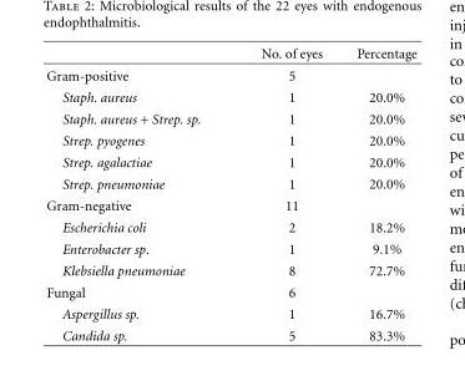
<table><thead><tr><td></td><td>No. of eyes</td><td>Percentage</td></tr></thead><tbody><tr><td>Gram-positive</td><td>5</td><td></td></tr><tr><td>Staph. aureus</td><td>1</td><td>20.0%</td></tr><tr><td>Staph. aureus + Strep. sp.</td><td>1</td><td>20.0%</td></tr><tr><td>Strep. pyogenes</td><td>1</td><td>20.0%</td></tr><tr><td>Strep. agalactiae</td><td>1</td><td>20.0%</td></tr><tr><td>Strep. pneumoniae</td><td>1</td><td>20.0%</td></tr><tr><td>Gram-negative</td><td>11</td><td></td></tr><tr><td>Escherichia coli</td><td>2</td><td>18.2%</td></tr><tr><td>Enterobacter sp.</td><td>1</td><td>9.1%</td></tr><tr><td>Klebsiella pneumoniae</td><td>8</td><td>72.7%</td></tr><tr><td>Fungal</td><td>6</td><td></td></tr><tr><td>Aspergillus sp.</td><td>1</td><td>16.7%</td></tr><tr><td>Candida sp.</td><td>5</td><td>83.3%</td></tr></tbody></table>